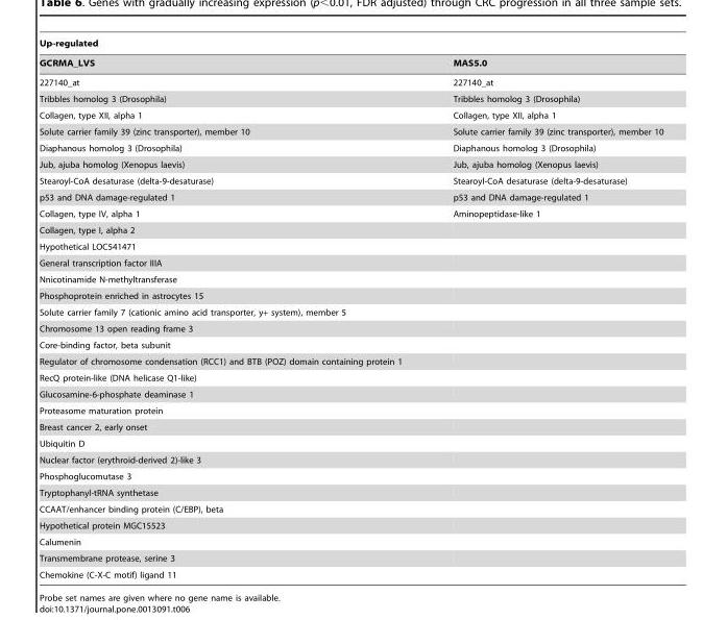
<table><thead><tr><td colspan="2">Up-regulated</td></tr><tr><td>GCRMA_LVS</td><td>MAS5.0</td></tr></thead><tbody><tr><td>227140_at</td><td>227140_at</td></tr><tr><td>Tribbles homolog 3 (Drosophila)</td><td>Tribbles homolog 3 (Drosophila)</td></tr><tr><td>Collagen, type XII, alpha 1</td><td>Collagen, type XII, alpha 1</td></tr><tr><td>Solute carrier family 39 (zinc transporter), member 10</td><td>Solute carrier family 39 (zinc transporter), member 10</td></tr><tr><td>Diaphanous homolog 3 (Drosophila)</td><td>Diaphanous homolog 3 (Drosophila)</td></tr><tr><td>Jub, ajuba homolog (Xenopus laevis)</td><td>Jub, ajuba homolog (Xenopus laevis)</td></tr><tr><td>Stearoyl-CoA desaturase (delta-9-desaturase)</td><td>Stearoyl-CoA desaturase (delta-9-desaturase)</td></tr><tr><td>p53 and DNA damage-regulated 1</td><td>p53 and DNA damage-regulated 1</td></tr><tr><td>Collagen, type IV, alpha 1</td><td>Aminopeptidase-like 1</td></tr><tr><td colspan="2">Collagen, type I, alpha 2</td></tr><tr><td colspan="2">Hypothetical LOC541471</td></tr><tr><td colspan="2">General transcription factor IIIA</td></tr><tr><td colspan="2">Nnicotinamide N-methyltransferase</td></tr><tr><td colspan="2">Phosphoprotein enriched in astrocytes 15</td></tr><tr><td colspan="2">Solute carrier family 7 (cationic amino acid transporter, y+ system), member 5</td></tr><tr><td colspan="2">Chromosome 13 open reading frame 3</td></tr><tr><td colspan="2">Core-binding factor, beta subunit</td></tr><tr><td colspan="2">Regulator of chromosome condensation (RCC1) and BTB (POZ) domain containing protein 1</td></tr><tr><td colspan="2">RecQ protein-like (DNA helicase Q1-like)</td></tr><tr><td colspan="2">Glucosamine-6-phosphate deaminase 1</td></tr><tr><td colspan="2">Proteasome maturation protein</td></tr><tr><td colspan="2">Breast cancer 2, early onset</td></tr><tr><td colspan="2">Ubiquitin D</td></tr><tr><td colspan="2">Nuclear factor (erythroid-derived 2)-like 3</td></tr><tr><td colspan="2">Phosphoglucomutase 3</td></tr><tr><td colspan="2">Tryptophanyl-tRNA synthetase</td></tr><tr><td colspan="2">CCAAT/enhancer binding protein (C/EBP), beta</td></tr><tr><td colspan="2">Hypothetical protein MGC15523</td></tr><tr><td colspan="2">Calumenin</td></tr><tr><td colspan="2">Transmembrane protease, serine 3</td></tr><tr><td>Chemokine (C-X-C motif) ligand 11</td><td></td></tr></tbody></table>